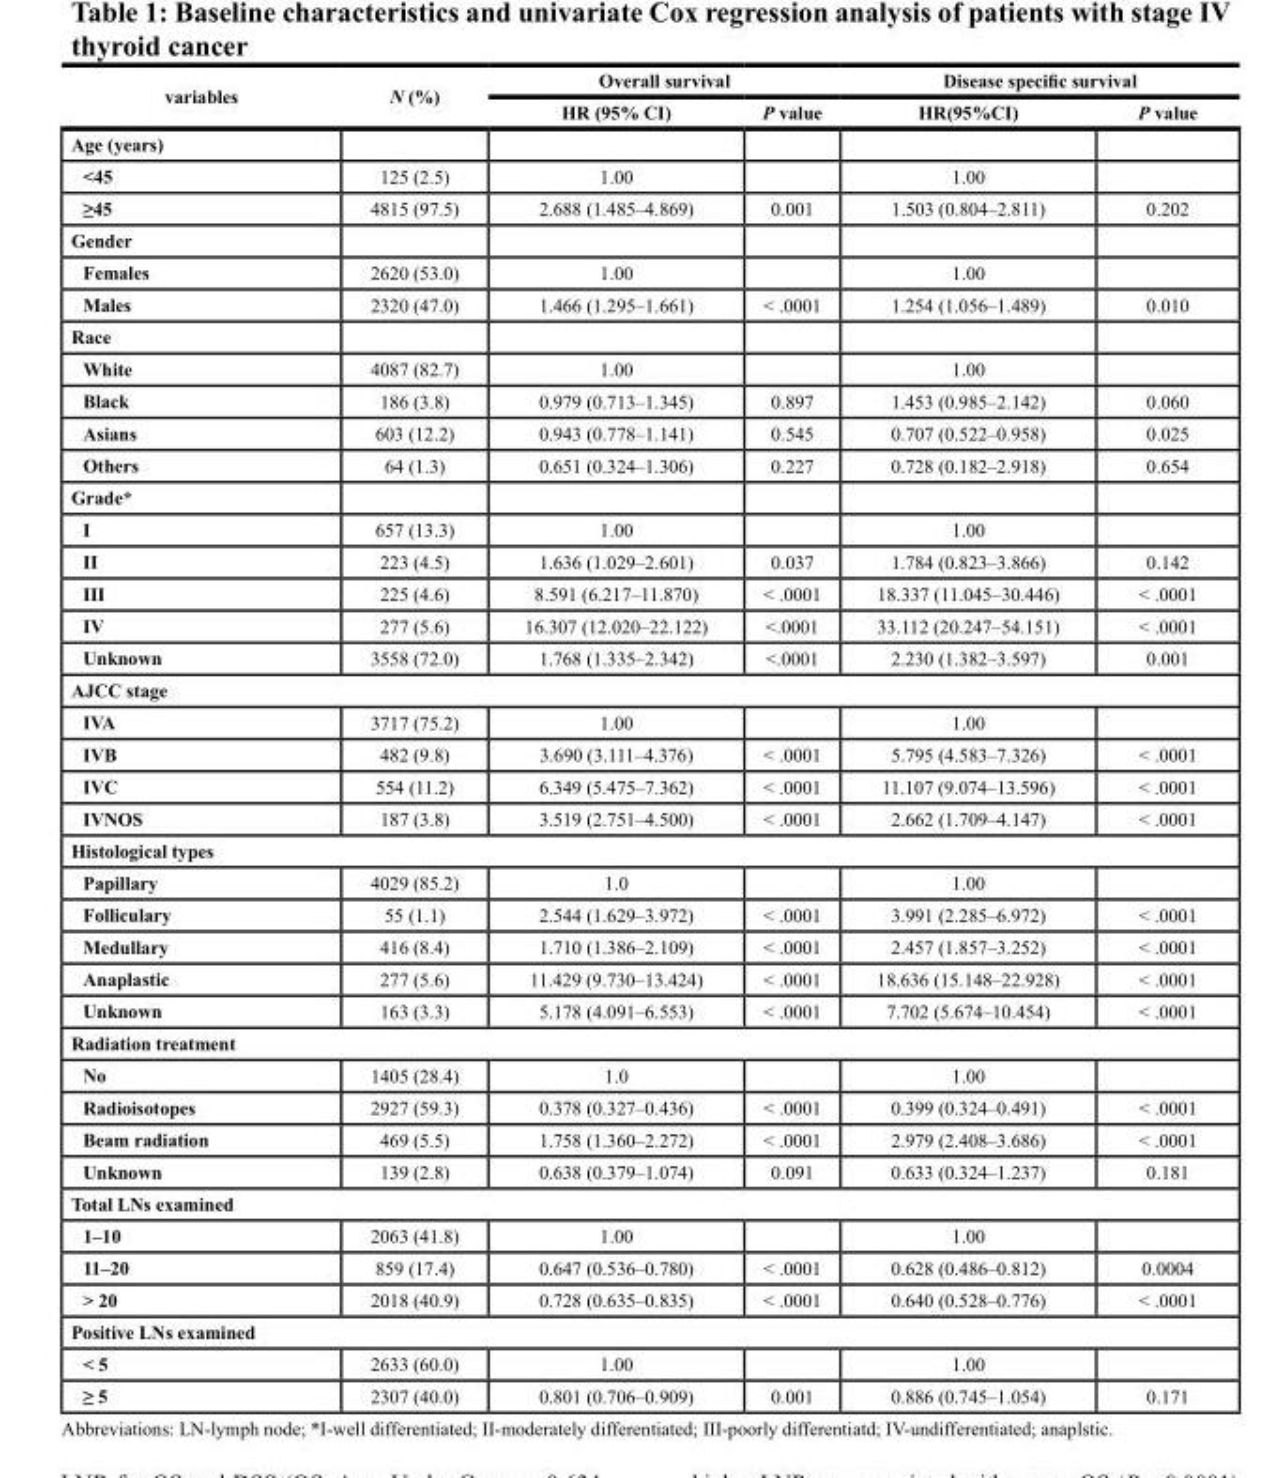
<table><thead><tr><td rowspan="2">variables</td><td rowspan="2">N (%)</td><td colspan="2">Overall survival</td><td colspan="2">Disease specific survival</td></tr><tr><td>HR (95% CI)</td><td>P value</td><td>HR(95%CI)</td><td>P value</td></tr></thead><tbody><tr><td colspan="6">Age (years)</td></tr><tr><td>&lt;45</td><td>125 (2.5)</td><td>1.00</td><td></td><td>1.00</td><td></td></tr><tr><td>≥45</td><td>4815 (97.5)</td><td>2.688 (1.485–4.869)</td><td>0.001</td><td>1.503 (0.804–2.811)</td><td>0.202</td></tr><tr><td colspan="6">Gender</td></tr><tr><td>Females</td><td>2620 (53.0)</td><td>1.00</td><td></td><td>1.00</td><td></td></tr><tr><td>Males</td><td>2320 (47.0)</td><td>1.466 (1.295–1.661)</td><td>&lt; .0001</td><td>1.254 (1.056–1.489)</td><td>0.010</td></tr><tr><td colspan="6">Race</td></tr><tr><td>White</td><td>4087 (82.7)</td><td>1.00</td><td></td><td>1.00</td><td></td></tr><tr><td>Black</td><td>186 (3.8)</td><td>0.979 (0.713–1.345)</td><td>0.897</td><td>1.453 (0.985–2.142)</td><td>0.060</td></tr><tr><td>Asians</td><td>603 (12.2)</td><td>0.943 (0.778–1.141)</td><td>0.545</td><td>0.707 (0.522–0.958)</td><td>0.025</td></tr><tr><td>Others</td><td>64 (1.3)</td><td>0.651 (0.324–1.306)</td><td>0.227</td><td>0.728 (0.182–2.918)</td><td>0.654</td></tr><tr><td colspan="6">Grade*</td></tr><tr><td>I</td><td>657 (13.3)</td><td>1.00</td><td></td><td>1.00</td><td></td></tr><tr><td>II</td><td>223 (4.5)</td><td>1.636 (1.029–2.601)</td><td>0.037</td><td>1.784 (0.823–3.866)</td><td>0.142</td></tr><tr><td>III</td><td>225 (4.6)</td><td>8.591 (6.217–11.870)</td><td>&lt; .0001</td><td>18.337 (11.045–30.446)</td><td>&lt; .0001</td></tr><tr><td>IV</td><td>277 (5.6)</td><td>16.307 (12.020–22.122)</td><td>&lt;.0001</td><td>33.112 (20.247–54.151)</td><td>&lt; .0001</td></tr><tr><td>Unknown</td><td>3558 (72.0)</td><td>1.768 (1.335–2.342)</td><td>&lt;.0001</td><td>2.230 (1.382–3.597)</td><td>0.001</td></tr><tr><td colspan="6">AJCC stage</td></tr><tr><td>IVA</td><td>3717 (75.2)</td><td>1.00</td><td></td><td>1.00</td><td></td></tr><tr><td>IVB</td><td>482 (9.8)</td><td>3.690 (3.111–4.376)</td><td>&lt; .0001</td><td>5.795 (4.583–7.326)</td><td>&lt; .0001</td></tr><tr><td>IVC</td><td>554 (11.2)</td><td>6.349 (5.475–7.362)</td><td>&lt; .0001</td><td>11.107 (9.074–13.596)</td><td>&lt; .0001</td></tr><tr><td>IVNOS</td><td>187 (3.8)</td><td>3.519 (2.751–4.500)</td><td>&lt; .0001</td><td>2.662 (1.709–4.147)</td><td>&lt; .0001</td></tr><tr><td colspan="6">Histological types</td></tr><tr><td>Papillary</td><td>4029 (85.2)</td><td>1.0</td><td></td><td>1.00</td><td></td></tr><tr><td>Folliculary</td><td>55 (1.1)</td><td>2.544 (1.629–3.972)</td><td>&lt; .0001</td><td>3.991 (2.285–6.972)</td><td>&lt; .0001</td></tr><tr><td>Medullary</td><td>416 (8.4)</td><td>1.710 (1.386–2.109)</td><td>&lt; .0001</td><td>2.457 (1.857–3.252)</td><td>&lt; .0001</td></tr><tr><td>Anaplastic</td><td>277 (5.6)</td><td>11.429 (9.730–13.424)</td><td>&lt; .0001</td><td>18.636 (15.148–22.928)</td><td>&lt; .0001</td></tr><tr><td>Unknown</td><td>163 (3.3)</td><td>5.178 (4.091–6.553)</td><td>&lt; .0001</td><td>7.702 (5.674–10.454)</td><td>&lt; .0001</td></tr><tr><td colspan="6">Radiation treatment</td></tr><tr><td>No</td><td>1405 (28.4)</td><td>1.0</td><td></td><td>1.00</td><td></td></tr><tr><td>Radioisotopes</td><td>2927 (59.3)</td><td>0.378 (0.327–0.436)</td><td>&lt; .0001</td><td>0.399 (0.324–0.491)</td><td>&lt; .0001</td></tr><tr><td>Beam radiation</td><td>469 (5.5)</td><td>1.758 (1.360–2.272)</td><td>&lt; .0001</td><td>2.979 (2.408–3.686)</td><td>&lt; .0001</td></tr><tr><td>Unknown</td><td>139 (2.8)</td><td>0.638 (0.379–1.074)</td><td>0.091</td><td>0.633 (0.324–1.237)</td><td>0.181</td></tr><tr><td colspan="6">Total LNs examined</td></tr><tr><td>1–10</td><td>2063 (41.8)</td><td>1.00</td><td></td><td>1.00</td><td></td></tr><tr><td>11–20</td><td>859 (17.4)</td><td>0.647 (0.536–0.780)</td><td>&lt; .0001</td><td>0.628 (0.486–0.812)</td><td>0.0004</td></tr><tr><td>&gt; 20</td><td>2018 (40.9)</td><td>0.728 (0.635–0.835)</td><td>&lt; .0001</td><td>0.640 (0.528–0.776)</td><td>&lt; .0001</td></tr><tr><td colspan="6">Positive LNs examined</td></tr><tr><td>&lt; 5</td><td>2633 (60.0)</td><td>1.00</td><td></td><td>1.00</td><td></td></tr><tr><td>≥ 5</td><td>2307 (40.0)</td><td>0.801 (0.706–0.909)</td><td>0.001</td><td>0.886 (0.745–1.054)</td><td>0.171</td></tr></tbody></table>